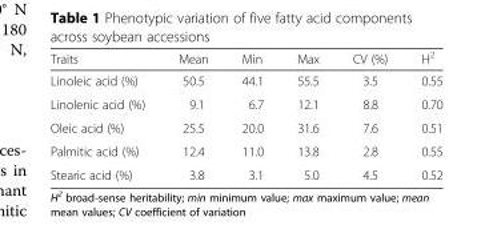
<table><thead><tr><td>Traits</td><td>Mean</td><td>Min</td><td>Max</td><td>CV (%)</td><td>H<sup>2</sup></td></tr></thead><tbody><tr><td>Linoleic acid (%)</td><td>50.5</td><td>44.1</td><td>55.5</td><td>3.5</td><td>0.55</td></tr><tr><td>Linolenic acid (%)</td><td>9.1</td><td>6.7</td><td>12.1</td><td>8.8</td><td>0.70</td></tr><tr><td>Oleic acid (%)</td><td>25.5</td><td>20.0</td><td>31.6</td><td>7.6</td><td>0.51</td></tr><tr><td>Palmitic acid (%)</td><td>12.4</td><td>11.0</td><td>13.8</td><td>2.8</td><td>0.55</td></tr><tr><td>Stearic acid (%)</td><td>3.8</td><td>3.1</td><td>5.0</td><td>4.5</td><td>0.52</td></tr></tbody></table>